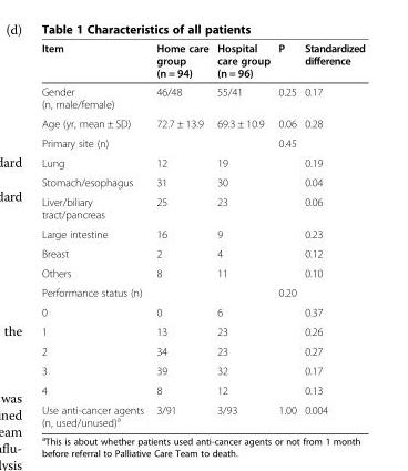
<table><thead><tr><td>Item</td><td>Home care group (n = 94)</td><td>Hospital care group (n = 96)</td><td>P</td><td>Standardized difference</td></tr></thead><tbody><tr><td>Gender (n, male/female)</td><td>46/48</td><td>55/41</td><td>0.25</td><td>0.17</td></tr><tr><td>Age (yr, mean ± SD)</td><td>72.7 ± 13.9</td><td>69.3 ± 10.9</td><td>0.06</td><td>0.28</td></tr><tr><td>Primary site (n)</td><td></td><td></td><td>0.45</td><td></td></tr><tr><td>Lung</td><td>12</td><td>19</td><td></td><td>0.19</td></tr><tr><td>Stomach/esophagus</td><td>31</td><td>30</td><td></td><td>0.04</td></tr><tr><td>Liver/biliary tract/pancreas</td><td>25</td><td>23</td><td></td><td>0.06</td></tr><tr><td>Large intestine</td><td>16</td><td>9</td><td></td><td>0.23</td></tr><tr><td>Breast</td><td>2</td><td>4</td><td></td><td>0.12</td></tr><tr><td>Others</td><td>8</td><td>11</td><td></td><td>0.10</td></tr><tr><td>Performance status (n)</td><td></td><td></td><td>0.20</td><td></td></tr><tr><td>0</td><td>0</td><td>6</td><td></td><td>0.37</td></tr><tr><td>1</td><td>13</td><td>23</td><td></td><td>0.26</td></tr><tr><td>2</td><td>34</td><td>23</td><td></td><td>0.27</td></tr><tr><td>3</td><td>39</td><td>32</td><td></td><td>0.17</td></tr><tr><td>4</td><td>8</td><td>12</td><td></td><td>0.13</td></tr><tr><td>Use anti-cancer agents (n, used/unused)<sup>a</sup></td><td>3/91</td><td>3/93</td><td>1.00</td><td>0.004</td></tr></tbody></table>